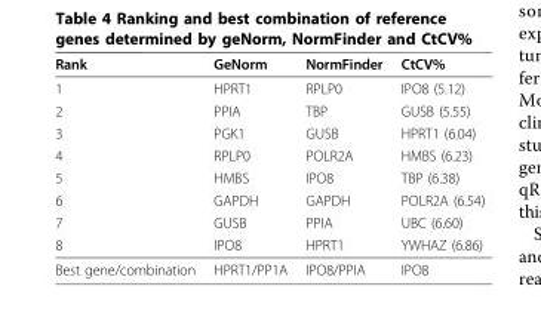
<table><thead><tr><td>Rank</td><td>GeNorm</td><td>NormFinder</td><td>CtCV%</td></tr></thead><tbody><tr><td>1</td><td>HPRT1</td><td>RPLP0</td><td>IPO8 (5.12)</td></tr><tr><td>2</td><td>PPIA</td><td>TBP</td><td>GUSB (5.55)</td></tr><tr><td>3</td><td>PGK1</td><td>GUSB</td><td>HPRT1 (6.04)</td></tr><tr><td>4</td><td>RPLP0</td><td>POLR2A</td><td>HMBS (6.23)</td></tr><tr><td>5</td><td>HMBS</td><td>IPO8</td><td>TBP (6.38)</td></tr><tr><td>6</td><td>GAPDH</td><td>GAPDH</td><td>POLR2A (6.54)</td></tr><tr><td>7</td><td>GUSB</td><td>PPIA</td><td>UBC (6.60)</td></tr><tr><td>8</td><td>IPO8</td><td>HPRT1</td><td>YWHAZ (6.86)</td></tr><tr><td>Best gene/combination</td><td>HPRT1/PP1A</td><td>IPO8/PPIA</td><td>IPO8</td></tr></tbody></table>